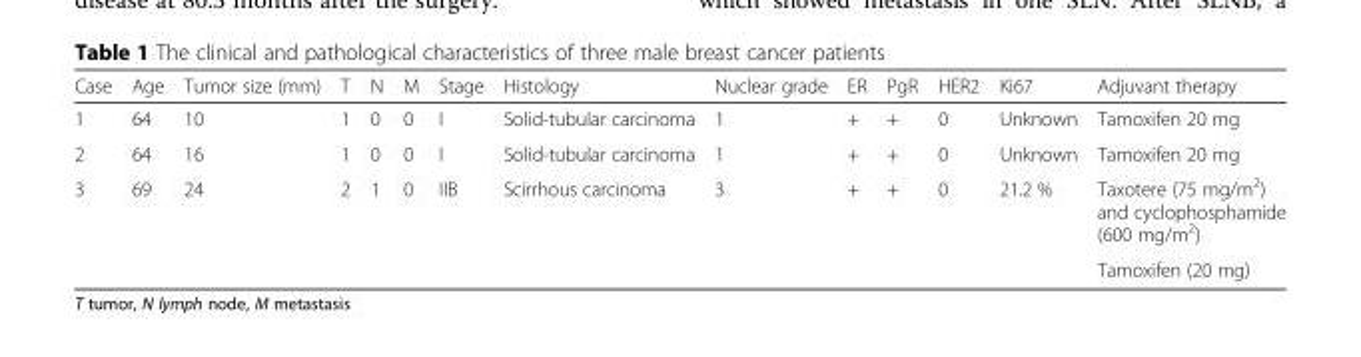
<table><thead><tr><td>Case</td><td>Age</td><td>Tumor size (mm)</td><td>T</td><td>N</td><td>M</td><td>Stage</td><td>Histology</td><td>Nuclear grade</td><td>ER</td><td>PgR</td><td>HER2</td><td>Ki67</td><td>Adjuvant therapy</td></tr></thead><tbody><tr><td>1</td><td>64</td><td>10</td><td>1</td><td>0</td><td>0</td><td>I</td><td>Solid-tubular carcinoma</td><td>1</td><td>+</td><td>+</td><td>0</td><td>Unknown</td><td>Tamoxifen 20 mg</td></tr><tr><td>2</td><td>64</td><td>16</td><td>1</td><td>0</td><td>0</td><td>I</td><td>Solid-tubular carcinoma</td><td>1</td><td>+</td><td>+</td><td>0</td><td>Unknown</td><td>Tamoxifen 20 mg</td></tr><tr><td rowspan="2">3</td><td rowspan="2">69</td><td rowspan="2">24</td><td rowspan="2">2</td><td rowspan="2">1</td><td rowspan="2">0</td><td rowspan="2">IIB</td><td rowspan="2">Scirrhous carcinoma</td><td rowspan="2">3</td><td rowspan="2">+</td><td rowspan="2">+</td><td rowspan="2">0</td><td rowspan="2">21.2 %</td><td>Taxotere (75 mg/m<sup>2</sup>) and cyclophosphamide (600 mg/m<sup>2</sup>)</td></tr><tr><td>Tamoxifen (20 mg)</td></tr></tbody></table>